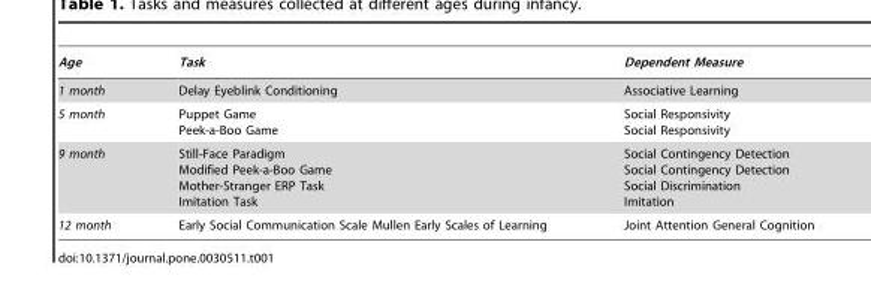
<table><thead><tr><td>Age</td><td>Task</td><td>Dependent Measure</td></tr></thead><tbody><tr><td>1 month</td><td>Delay Eyeblink Conditioning</td><td>Associative Learning</td></tr><tr><td>5 month</td><td>Puppet Game Peek-a-Boo Game</td><td>Social Responsivity Social Responsivity</td></tr><tr><td>9 month</td><td>Still-Face Paradigm Modified Peek-a-Boo Game Mother-Stranger ERP Task Imitation Task</td><td>Social Contingency Detection Social Contingency Detection Social Discrimination Imitation</td></tr><tr><td>12 month</td><td>Early Social Communication Scale Mullen Early Scales of Learning</td><td>Joint Attention General Cognition</td></tr></tbody></table>